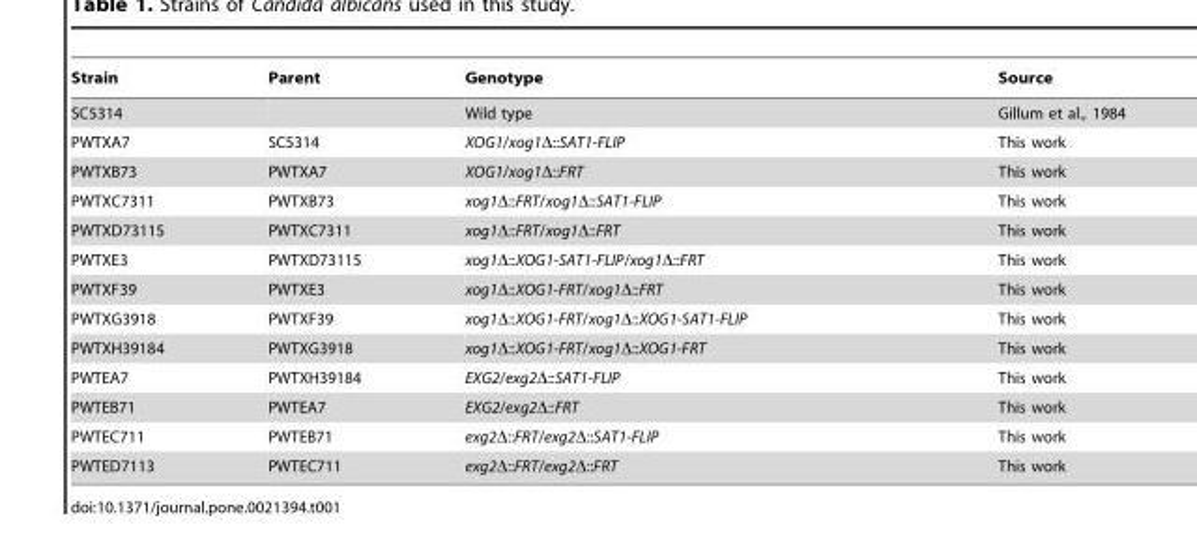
<table><thead><tr><td>Strain</td><td>Parent</td><td>Genotype</td><td>Source</td></tr></thead><tbody><tr><td>SC5314</td><td></td><td>Wild type</td><td>Gillum et al., 1984</td></tr><tr><td>PWTXA7</td><td>SC5314</td><td>XOG1/xog1Δ::SAT1-FLIP</td><td>This work</td></tr><tr><td>PWTXB73</td><td>PWTXA7</td><td>XOG1/xog1Δ::FRT</td><td>This work</td></tr><tr><td>PWTXC7311</td><td>PWTXB73</td><td>xog1Δ::FRT/xog1Δ::SAT1-FLIP</td><td>This work</td></tr><tr><td>PWTXD73115</td><td>PWTXC7311</td><td>xog1Δ::FRT/xog1Δ::FRT</td><td>This work</td></tr><tr><td>PWTXE3</td><td>PWTXD73115</td><td>xog1Δ::XOG1-SAT1-FLIP/xog1Δ::FRT</td><td>This work</td></tr><tr><td>PWTXF39</td><td>PWTXE3</td><td>xog1Δ::XOG1-FRT/xog1Δ::FRT</td><td>This work</td></tr><tr><td>PWTXG3918</td><td>PWTXF39</td><td>xog1Δ::XOG1-FRT/xog1Δ::XOG1-SAT1-FLIP</td><td>This work</td></tr><tr><td>PWTXH39184</td><td>PWTXG3918</td><td>xog1Δ::XOG1-FRT/xog1Δ::XOG1-FRT</td><td>This work</td></tr><tr><td>PWTEA7</td><td>PWTXH39184</td><td>EXG2/exg2Δ::SAT1-FLIP</td><td>This work</td></tr><tr><td>PWTEB71</td><td>PWTEA7</td><td>EXG2/exg2Δ::FRT</td><td>This work</td></tr><tr><td>PWTEC711</td><td>PWTEB71</td><td>exg2Δ::FRT/exg2Δ::SAT1-FLIP</td><td>This work</td></tr><tr><td>PWTED7113</td><td>PWTEC711</td><td>exg2Δ::FRT/exg2Δ::FRT</td><td>This work</td></tr></tbody></table>